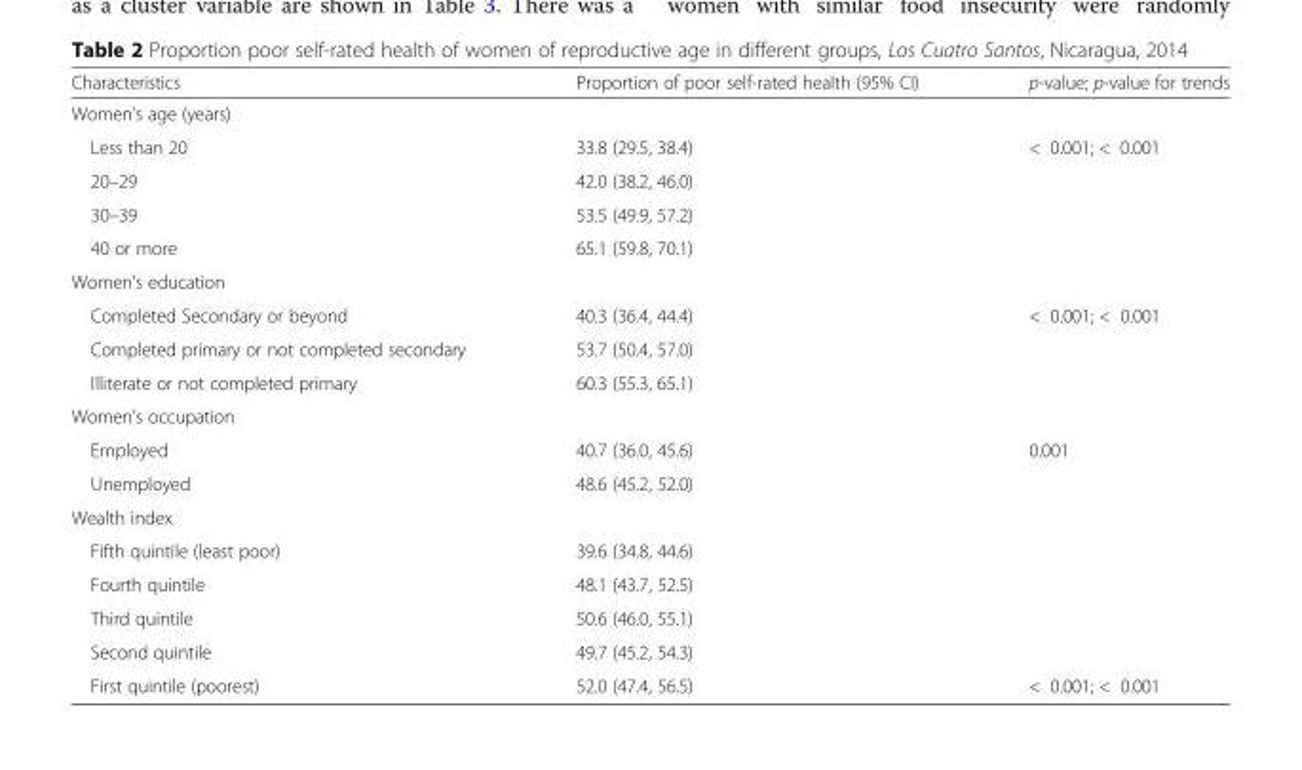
<table><thead><tr><td>Characteristics</td><td>Proportion of poor self-rated health (95% CI)</td><td>p-value; p-value for trends</td></tr></thead><tbody><tr><td colspan="3">Women’s age (years)</td></tr><tr><td>Less than 20</td><td>33.8 (29.5, 38.4)</td><td>&lt; 0.001; &lt; 0.001</td></tr><tr><td>20–29</td><td>42.0 (38.2, 46.0)</td><td></td></tr><tr><td>30–39</td><td>53.5 (49.9, 57.2)</td><td></td></tr><tr><td>40 or more</td><td>65.1 (59.8, 70.1)</td><td></td></tr><tr><td colspan="3">Women’s education</td></tr><tr><td>Completed Secondary or beyond</td><td>40.3 (36.4, 44.4)</td><td>&lt; 0.001; &lt; 0.001</td></tr><tr><td>Completed primary or not completed secondary</td><td>53.7 (50.4, 57.0)</td><td></td></tr><tr><td>Illiterate or not completed primary</td><td>60.3 (55.3, 65.1)</td><td></td></tr><tr><td colspan="3">Women’s occupation</td></tr><tr><td>Employed</td><td>40.7 (36.0, 45.6)</td><td>0.001</td></tr><tr><td>Unemployed</td><td>48.6 (45.2, 52.0)</td><td></td></tr><tr><td colspan="3">Wealth index</td></tr><tr><td>Fifth quintile (least poor)</td><td>39.6 (34.8, 44.6)</td><td></td></tr><tr><td>Fourth quintile</td><td>48.1 (43.7, 52.5)</td><td></td></tr><tr><td>Third quintile</td><td>50.6 (46.0, 55.1)</td><td></td></tr><tr><td>Second quintile</td><td>49.7 (45.2, 54.3)</td><td></td></tr><tr><td>First quintile (poorest)</td><td>52.0 (47.4, 56.5)</td><td>&lt; 0.001; &lt; 0.001</td></tr></tbody></table>